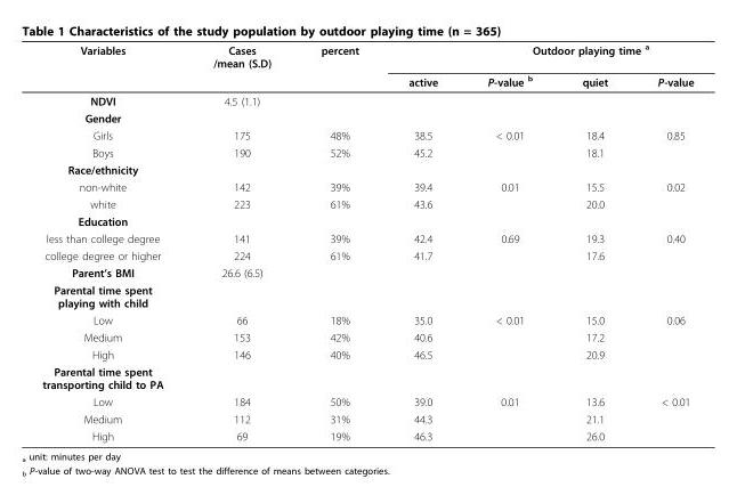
<table><thead><tr><td rowspan="2">Variables</td><td rowspan="2">Cases /mean (S.D)</td><td rowspan="2">percent</td><td rowspan="2">active</td><td colspan="3">Outdoor playing time <sup>a</sup></td></tr><tr><td>P-value <sup>b</sup></td><td>quiet</td><td>P-value</td></tr></thead><tbody><tr><td>NDVI</td><td>4.5 (1.1)</td><td></td><td></td><td></td><td></td><td></td></tr><tr><td colspan="7">Gender</td></tr><tr><td>Girls</td><td>175</td><td>48%</td><td>38.5</td><td>&lt; 0.01</td><td>18.4</td><td>0.85</td></tr><tr><td>Boys</td><td>190</td><td>52%</td><td>45.2</td><td></td><td>18.1</td><td></td></tr><tr><td colspan="7">Race/ethnicity</td></tr><tr><td>non-white</td><td>142</td><td>39%</td><td>39.4</td><td>0.01</td><td>15.5</td><td>0.02</td></tr><tr><td>white</td><td>223</td><td>61%</td><td>43.6</td><td></td><td>20.0</td><td></td></tr><tr><td colspan="7">Education</td></tr><tr><td>less than college degree</td><td>141</td><td>39%</td><td>42.4</td><td>0.69</td><td>19.3</td><td>0.40</td></tr><tr><td>college degree or higher</td><td>224</td><td>61%</td><td>41.7</td><td></td><td>17.6</td><td></td></tr><tr><td>Parent’s BMI</td><td>26.6 (6.5)</td><td></td><td></td><td></td><td></td><td></td></tr><tr><td colspan="7">Parental time spent playing with child</td></tr><tr><td>Low</td><td>66</td><td>18%</td><td>35.0</td><td>&lt; 0.01</td><td>15.0</td><td>0.06</td></tr><tr><td>Medium</td><td>153</td><td>42%</td><td>40.6</td><td></td><td>17.2</td><td></td></tr><tr><td>High</td><td>146</td><td>40%</td><td>46.5</td><td></td><td>20.9</td><td></td></tr><tr><td colspan="7">Parental time spent transporting child to PA</td></tr><tr><td>Low</td><td>184</td><td>50%</td><td>39.0</td><td>0.01</td><td>13.6</td><td>&lt; 0.01</td></tr><tr><td>Medium</td><td>112</td><td>31%</td><td>44.3</td><td></td><td>21.1</td><td></td></tr><tr><td>High</td><td>69</td><td>19%</td><td>46.3</td><td></td><td>26.0</td><td></td></tr></tbody></table>